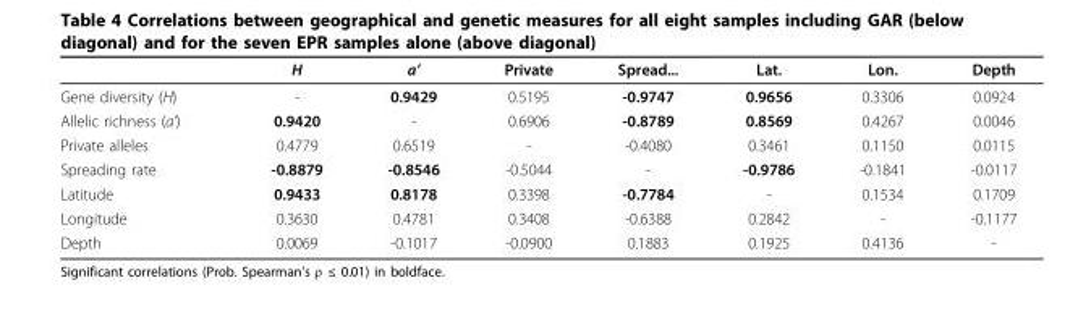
<table><thead><tr><td></td><td>H</td><td>a’</td><td>Private</td><td>Spread...</td><td>Lat.</td><td>Lon.</td><td>Depth</td></tr></thead><tbody><tr><td>Gene diversity (H)</td><td>-</td><td>0.9429</td><td>0.5195</td><td>-0.9747</td><td>0.9656</td><td>0.3306</td><td>0.0924</td></tr><tr><td>Allelic richness (a’)</td><td>0.9420</td><td>-</td><td>0.6906</td><td>-0.8789</td><td>0.8569</td><td>0.4267</td><td>0.0046</td></tr><tr><td>Private alleles</td><td>0.4779</td><td>0.6519</td><td>-</td><td>-0.4080</td><td>0.3461</td><td>0.1150</td><td>0.0115</td></tr><tr><td>Spreading rate</td><td>-0.8879</td><td>-0.8546</td><td>-0.5044</td><td>-</td><td>-0.9786</td><td>-0.1841</td><td>-0.0117</td></tr><tr><td>Latitude</td><td>0.9433</td><td>0.8178</td><td>0.3398</td><td>-0.7784</td><td>-</td><td>0.1534</td><td>0.1709</td></tr><tr><td>Longitude</td><td>0.3630</td><td>0.4781</td><td>0.3408</td><td>-0.6388</td><td>0.2842</td><td>-</td><td>-0.1177</td></tr><tr><td>Depth</td><td>0.0069</td><td>-0.1017</td><td>-0.0900</td><td>0.1883</td><td>0.1925</td><td>0.4136</td><td>-</td></tr></tbody></table>